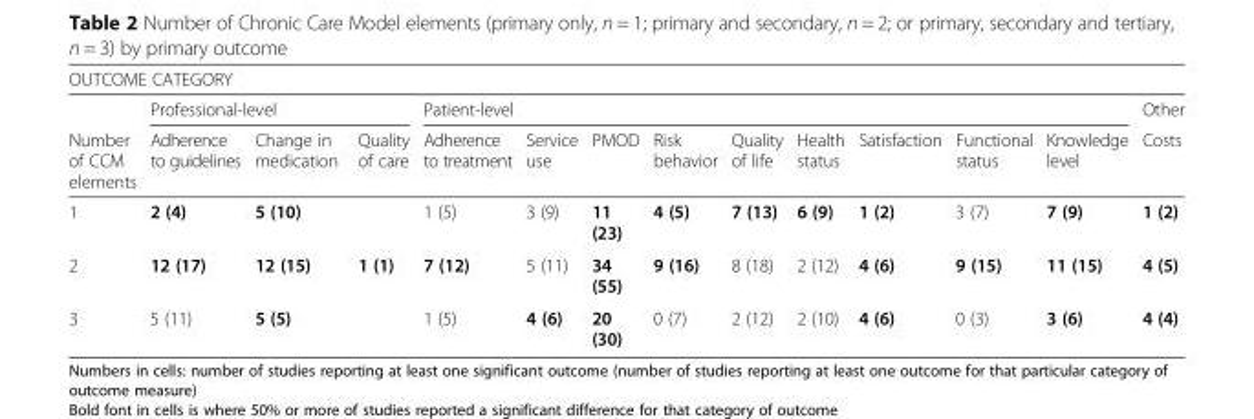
<table><thead><tr><td colspan="14">OUTCOME CATEGORY</td></tr><tr><td rowspan="2">Number of CCM elements</td><td colspan="3">Professional-level</td><td colspan="9">Patient-level</td><td rowspan="2">Other Costs</td></tr><tr><td>Adherence to guidelines</td><td>Change in medication</td><td>Quality of care</td><td>Adherence to treatment</td><td>Service use</td><td>PMOD</td><td>Risk behavior</td><td>Quality of life</td><td>Health status</td><td>Satisfaction</td><td>Functional status</td><td>Knowledge level</td></tr></thead><tbody><tr><td>1</td><td>2 (4)</td><td>5 (10)</td><td></td><td>1 (5)</td><td>3 (9)</td><td>11 (23)</td><td>4 (5)</td><td>7 (13)</td><td>6 (9)</td><td>1 (2)</td><td>3 (7)</td><td>7 (9)</td><td>1 (2)</td></tr><tr><td>2</td><td>12 (17)</td><td>12 (15)</td><td>1 (1)</td><td>7 (12)</td><td>5 (11)</td><td>34 (55)</td><td>9 (16)</td><td>8 (18)</td><td>2 (12)</td><td>4 (6)</td><td>9 (15)</td><td>11 (15)</td><td>4 (5)</td></tr><tr><td>3</td><td>5 (11)</td><td>5 (5)</td><td></td><td>1 (5)</td><td>4 (6)</td><td>20 (30)</td><td>0 (7)</td><td>2 (12)</td><td>2 (10)</td><td>4 (6)</td><td>0 (3)</td><td>3 (6)</td><td>4 (4)</td></tr></tbody></table>